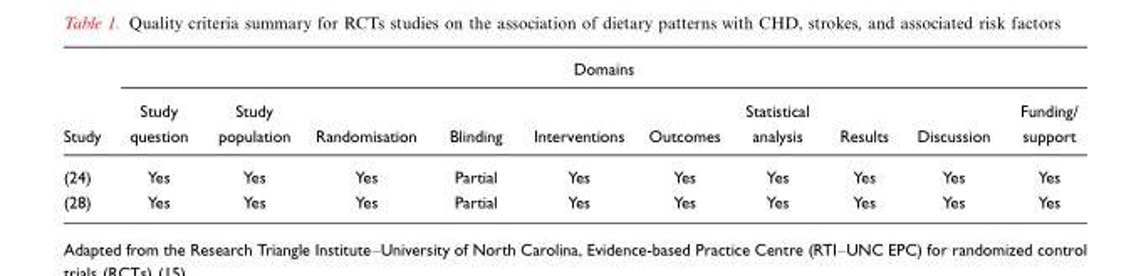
<table><thead><tr><td rowspan="2">Study</td><td colspan="10">Domains</td></tr><tr><td>Study question</td><td>Study population</td><td>Randomisation</td><td>Blinding</td><td>Interventions</td><td>Outcomes</td><td>Statistical analysis</td><td>Results</td><td>Discussion</td><td>Funding/ support</td></tr></thead><tbody><tr><td>(24)</td><td>Yes</td><td>Yes</td><td>Yes</td><td>Partial</td><td>Yes</td><td>Yes</td><td>Yes</td><td>Yes</td><td>Yes</td><td>Yes</td></tr><tr><td>(28)</td><td>Yes</td><td>Yes</td><td>Yes</td><td>Partial</td><td>Yes</td><td>Yes</td><td>Yes</td><td>Yes</td><td>Yes</td><td>Yes</td></tr></tbody></table>